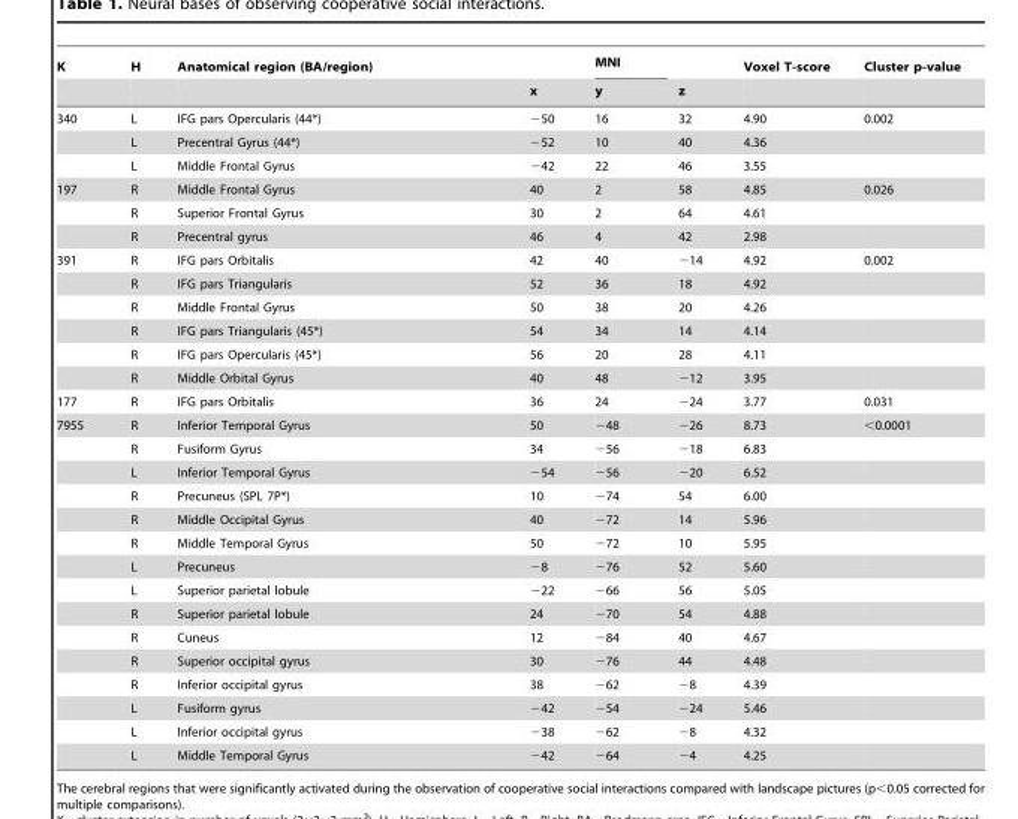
<table><thead><tr><td rowspan="2">K</td><td rowspan="2">H</td><td rowspan="2">Anatomical region (BA/region)</td><td rowspan="2">x</td><td rowspan="2">MNI y</td><td rowspan="2">z</td><td rowspan="2">Voxel T-score</td><td rowspan="2">Cluster p-value</td></tr><tr></tr></thead><tbody><tr><td rowspan="3">340</td><td>L</td><td>IFG pars Opercularis (44*)</td><td>−50</td><td>16</td><td>32</td><td>4.90</td><td>0.002</td></tr><tr><td>L</td><td>Precentral Gyrus (44*)</td><td>−52</td><td>10</td><td>40</td><td>4.36</td><td></td></tr><tr><td>L</td><td>Middle Frontal Gyrus</td><td>−42</td><td>22</td><td>46</td><td>3.55</td><td></td></tr><tr><td rowspan="3">197</td><td>R</td><td>Middle Frontal Gyrus</td><td>40</td><td>2</td><td>58</td><td>4.85</td><td>0.026</td></tr><tr><td>R</td><td>Superior Frontal Gyrus</td><td>30</td><td>2</td><td>64</td><td>4.61</td><td></td></tr><tr><td>R</td><td>Precentral gyrus</td><td>46</td><td>4</td><td>42</td><td>2.98</td><td></td></tr><tr><td rowspan="6">391</td><td>R</td><td>IFG pars Orbitalis</td><td>42</td><td>40</td><td>−14</td><td>4.92</td><td>0.002</td></tr><tr><td>R</td><td>IFG pars Triangularis</td><td>52</td><td>36</td><td>18</td><td>4.92</td><td></td></tr><tr><td>R</td><td>Middle Frontal Gyrus</td><td>50</td><td>38</td><td>20</td><td>4.26</td><td></td></tr><tr><td>R</td><td>IFG pars Triangularis (45*)</td><td>54</td><td>34</td><td>14</td><td>4.14</td><td></td></tr><tr><td>R</td><td>IFG pars Opercularis (45*)</td><td>56</td><td>20</td><td>28</td><td>4.11</td><td></td></tr><tr><td>R</td><td>Middle Orbital Gyrus</td><td>40</td><td>48</td><td>−12</td><td>3.95</td><td></td></tr><tr><td>177</td><td>R</td><td>IFG pars Orbitalis</td><td>36</td><td>24</td><td>−24</td><td>3.77</td><td>0.031</td></tr><tr><td rowspan="15">7955</td><td>R</td><td>Inferior Temporal Gyrus</td><td>50</td><td>−48</td><td>−26</td><td>8.73</td><td>&lt;0.0001</td></tr><tr><td>R</td><td>Fusiform Gyrus</td><td>34</td><td>−56</td><td>−18</td><td>6.83</td><td></td></tr><tr><td>L</td><td>Inferior Temporal Gyrus</td><td>−54</td><td>−56</td><td>−20</td><td>6.52</td><td></td></tr><tr><td>R</td><td>Precuneus (SPL 7P*)</td><td>10</td><td>−74</td><td>54</td><td>6.00</td><td></td></tr><tr><td>R</td><td>Middle Occipital Gyrus</td><td>40</td><td>−72</td><td>14</td><td>5.96</td><td></td></tr><tr><td>R</td><td>Middle Temporal Gyrus</td><td>50</td><td>−72</td><td>10</td><td>5.95</td><td></td></tr><tr><td>L</td><td>Precuneus</td><td>−8</td><td>−76</td><td>52</td><td>5.60</td><td></td></tr><tr><td>L</td><td>Superior parietal lobule</td><td>−22</td><td>−66</td><td>56</td><td>5.05</td><td></td></tr><tr><td>R</td><td>Superior parietal lobule</td><td>24</td><td>−70</td><td>54</td><td>4.88</td><td></td></tr><tr><td>R</td><td>Cuneus</td><td>12</td><td>−84</td><td>40</td><td>4.67</td><td></td></tr><tr><td>R</td><td>Superior occipital gyrus</td><td>30</td><td>−76</td><td>44</td><td>4.48</td><td></td></tr><tr><td>R</td><td>Inferior occipital gyrus</td><td>38</td><td>−62</td><td>−8</td><td>4.39</td><td></td></tr><tr><td>L</td><td>Fusiform gyrus</td><td>−42</td><td>−54</td><td>−24</td><td>5.46</td><td></td></tr><tr><td>L</td><td>Inferior occipital gyrus</td><td>−38</td><td>−62</td><td>−8</td><td>4.32</td><td></td></tr><tr><td>L</td><td>Middle Temporal Gyrus</td><td>−42</td><td>−64</td><td>−4</td><td>4.25</td><td></td></tr></tbody></table>